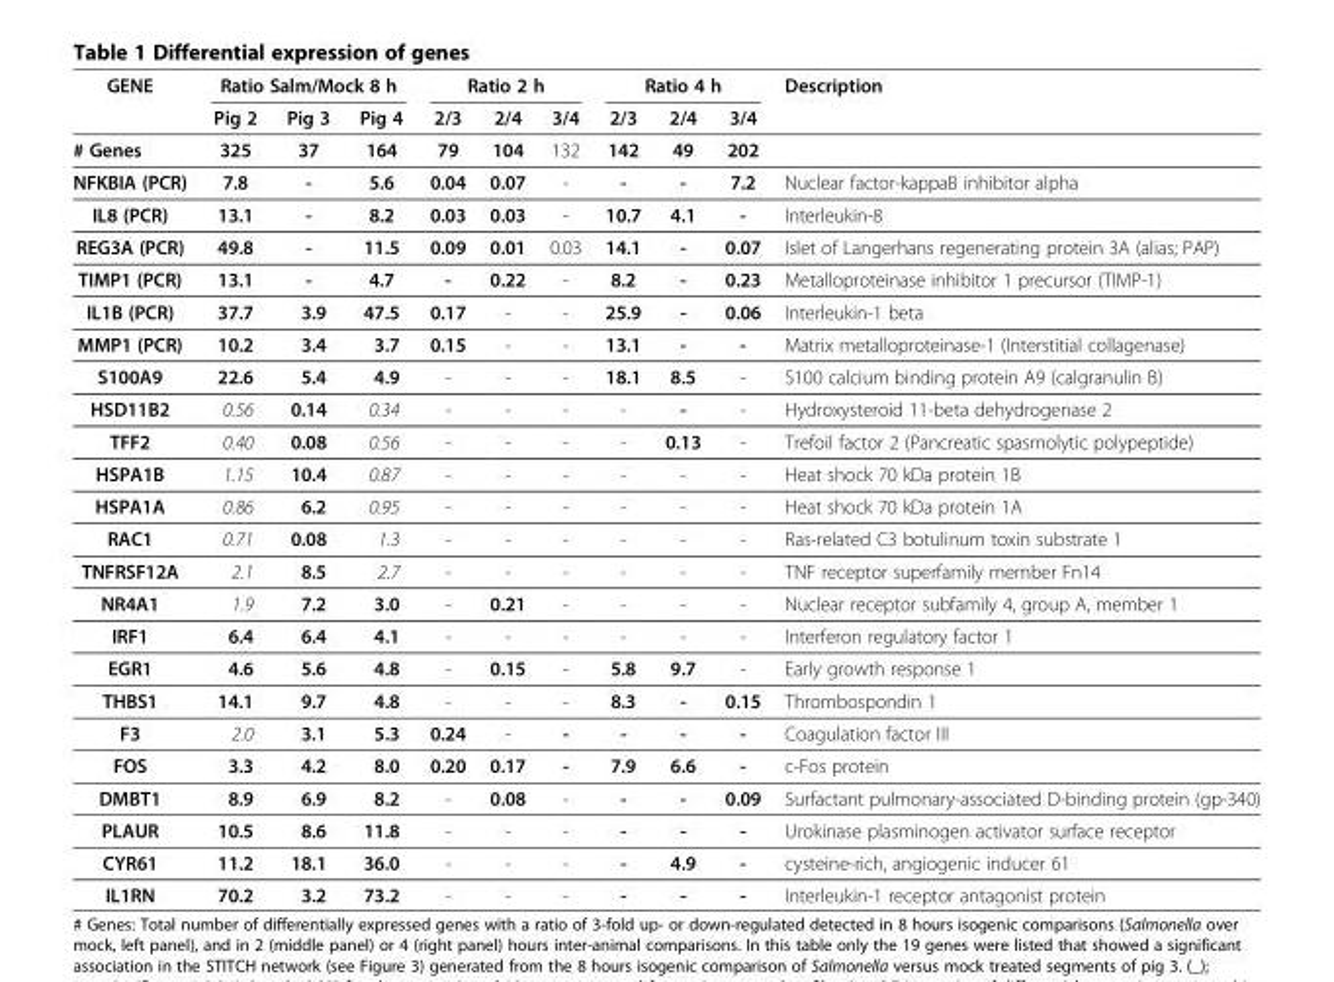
<table><tbody><tr><td rowspan="2">GENE</td><td colspan="3">Ratio Salm/Mock 8 h</td><td colspan="3">Ratio 2 h</td><td colspan="3">Ratio 4 h</td><td rowspan="2">Description</td></tr><tr><td>Pig 2</td><td>Pig 3</td><td>Pig 4</td><td>2/3</td><td>2/4</td><td>3/4</td><td>2/3</td><td>2/4</td><td>3/4</td></tr><tr><td># Genes</td><td>325</td><td>37</td><td>164</td><td>79</td><td>104</td><td>132</td><td>142</td><td>49</td><td>202</td><td></td></tr><tr><td>NFKBIA (PCR)</td><td>7.8</td><td>-</td><td>5.6</td><td>0.04</td><td>0.07</td><td>-</td><td>-</td><td>-</td><td>7.2</td><td>Nuclear factor-kappaB inhibitor alpha</td></tr><tr><td>IL8 (PCR)</td><td>13.1</td><td>-</td><td>8.2</td><td>0.03</td><td>0.03</td><td>-</td><td>10.7</td><td>4.1</td><td>-</td><td>Interleukin-8</td></tr><tr><td>REG3A (PCR)</td><td>49.8</td><td>-</td><td>11.5</td><td>0.09</td><td>0.01</td><td>0.03</td><td>14.1</td><td>-</td><td>0.07</td><td>Islet of Langerhans regenerating protein 3A (alias; PAP)</td></tr><tr><td>TIMP1 (PCR)</td><td>13.1</td><td>-</td><td>4.7</td><td>-</td><td>0.22</td><td>-</td><td>8.2</td><td>-</td><td>0.23</td><td>Metalloproteinase inhibitor 1 precursor (TIMP-1)</td></tr><tr><td>IL1B (PCR)</td><td>37.7</td><td>3.9</td><td>47.5</td><td>0.17</td><td>-</td><td>-</td><td>25.9</td><td>-</td><td>0.06</td><td>Interleukin-1 beta</td></tr><tr><td>MMP1 (PCR)</td><td>10.2</td><td>3.4</td><td>3.7</td><td>0.15</td><td>-</td><td>-</td><td>13.1</td><td>-</td><td>-</td><td>Matrix metalloproteinase-1 (Interstitial collagenase)</td></tr><tr><td>S100A9</td><td>22.6</td><td>5.4</td><td>4.9</td><td>-</td><td>-</td><td>-</td><td>18.1</td><td>8.5</td><td>-</td><td>S100 calcium binding protein A9 (calgranulin B)</td></tr><tr><td>HSD11B2</td><td>0.56</td><td>0.14</td><td>0.34</td><td>-</td><td>-</td><td>-</td><td>-</td><td>-</td><td>-</td><td>Hydroxysteroid 11-beta dehydrogenase 2</td></tr><tr><td>TFF2</td><td>0.40</td><td>0.08</td><td>0.56</td><td>-</td><td>-</td><td>-</td><td>-</td><td>0.13</td><td>-</td><td>Trefoil factor 2 (Pancreatic spasmolytic polypeptide)</td></tr><tr><td>HSPA1B</td><td>1.15</td><td>10.4</td><td>0.87</td><td>-</td><td>-</td><td>-</td><td>-</td><td>-</td><td>-</td><td>Heat shock 70 kDa protein 1B</td></tr><tr><td>HSPA1A</td><td>0.86</td><td>6.2</td><td>0.95</td><td>-</td><td>-</td><td>-</td><td>-</td><td>-</td><td>-</td><td>Heat shock 70 kDa protein 1A</td></tr><tr><td>RAC1</td><td>0.71</td><td>0.08</td><td>1.3</td><td>-</td><td>-</td><td>-</td><td>-</td><td>-</td><td>-</td><td>Ras-related C3 botulinum toxin substrate 1</td></tr><tr><td>TNFRSF12A</td><td>2.1</td><td>8.5</td><td>2.7</td><td>-</td><td>-</td><td>-</td><td>-</td><td>-</td><td>-</td><td>TNF receptor superfamily member Fn14</td></tr><tr><td>NR4A1</td><td>1.9</td><td>7.2</td><td>3.0</td><td>-</td><td>0.21</td><td>-</td><td>-</td><td>-</td><td>-</td><td>Nuclear receptor subfamily 4, group A, member 1</td></tr><tr><td>IRF1</td><td>6.4</td><td>6.4</td><td>4.1</td><td>-</td><td>-</td><td>-</td><td>-</td><td>-</td><td>-</td><td>Interferon regulatory factor 1</td></tr><tr><td>EGR1</td><td>4.6</td><td>5.6</td><td>4.8</td><td>-</td><td>0.15</td><td>-</td><td>5.8</td><td>9.7</td><td>-</td><td>Early growth response 1</td></tr><tr><td>THBS1</td><td>14.1</td><td>9.7</td><td>4.8</td><td>-</td><td>-</td><td>-</td><td>8.3</td><td>-</td><td>0.15</td><td>Thrombospondin 1</td></tr><tr><td>F3</td><td>2.0</td><td>3.1</td><td>5.3</td><td>0.24</td><td>-</td><td>-</td><td>-</td><td>-</td><td>-</td><td>Coagulation factor III</td></tr><tr><td>FOS</td><td>3.3</td><td>4.2</td><td>8.0</td><td>0.20</td><td>0.17</td><td>-</td><td>7.9</td><td>6.6</td><td>-</td><td>c-Fos protein</td></tr><tr><td>DMBT1</td><td>8.9</td><td>6.9</td><td>8.2</td><td>-</td><td>0.08</td><td>-</td><td>-</td><td>-</td><td>0.09</td><td>Surfactant pulmonary-associated D-binding protein (gp-340)</td></tr><tr><td>PLAUR</td><td>10.5</td><td>8.6</td><td>11.8</td><td>-</td><td>-</td><td>-</td><td>-</td><td>-</td><td>-</td><td>Urokinase plasminogen activator surface receptor</td></tr><tr><td>CYR61</td><td>11.2</td><td>18.1</td><td>36.0</td><td>-</td><td>-</td><td>-</td><td>-</td><td>4.9</td><td>-</td><td>cysteine-rich, angiogenic inducer 61</td></tr><tr><td>IL1RN</td><td>70.2</td><td>3.2</td><td>73.2</td><td>-</td><td>-</td><td>-</td><td>-</td><td>-</td><td>-</td><td>Interleukin-1 receptor antagonist protein</td></tr></tbody></table>